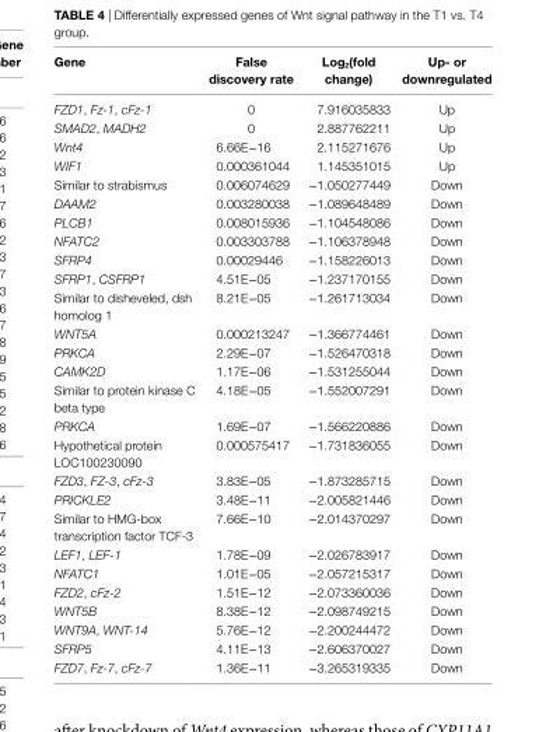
<table><thead><tr><td>gene</td><td>False discovery rate</td><td>log<sub>2</sub>(fold change)</td><td>Up- or downregulated</td></tr></thead><tbody><tr><td>FZD1, Fz-1, cFz-1</td><td>0</td><td>7.916035833</td><td>Up</td></tr><tr><td>SMAD2, MADH2</td><td>0</td><td>2.887762211</td><td>Up</td></tr><tr><td>Wnt4</td><td>6.66E−16</td><td>2.115271676</td><td>Up</td></tr><tr><td>WIF1</td><td>0.000361044</td><td>1.145351015</td><td>Up</td></tr><tr><td>Similar to strabismus</td><td>0.006074629</td><td>−1.050277449</td><td>Down</td></tr><tr><td>DAAM2</td><td>0.003280038</td><td>−1.089648489</td><td>Down</td></tr><tr><td>PLCB1</td><td>0.008015936</td><td>−1.104548086</td><td>Down</td></tr><tr><td>NFATC2</td><td>0.003303788</td><td>−1.106378948</td><td>Down</td></tr><tr><td>SFRP4</td><td>0.00029446</td><td>−1.158226013</td><td>Down</td></tr><tr><td>SFRP1, CSFRP1</td><td>4.51E−05</td><td>−1.237170155</td><td>Down</td></tr><tr><td>Similar to disheveled, dsh homolog 1</td><td>8.21E−05</td><td>−1.261713034</td><td>Down</td></tr><tr><td>WNT5A</td><td>0.000213247</td><td>−1.366774461</td><td>Down</td></tr><tr><td>PRKCA</td><td>2.29E−07</td><td>−1.526470318</td><td>Down</td></tr><tr><td>CAMK2D</td><td>1.17E−06</td><td>−1.531255044</td><td>Down</td></tr><tr><td>Similar to protein kinase C beta type</td><td>4.18E−05</td><td>−1.552007291</td><td>Down</td></tr><tr><td>PRKCA</td><td>1.69E−07</td><td>−1.566220886</td><td>Down</td></tr><tr><td>Hypothetical protein LOC100230090</td><td>0.000575417</td><td>−1.731836055</td><td>Down</td></tr><tr><td>FZD3, FZ-3, cFz-3</td><td>3.83E−05</td><td>−1.873285715</td><td>Down</td></tr><tr><td>PRICKLE2</td><td>3.48E−11</td><td>−2.005821446</td><td>Down</td></tr><tr><td>Similar to HMG-box transcription factor TCF-3</td><td>7.66E−10</td><td>−2.014370297</td><td>Down</td></tr><tr><td>LEF1, LEF-1</td><td>1.78E−09</td><td>−2.026783917</td><td>Down</td></tr><tr><td>NFATC1</td><td>1.01E−05</td><td>−2.057215317</td><td>Down</td></tr><tr><td>FZD2, cFz-2</td><td>1.51E−12</td><td>−2.073360036</td><td>Down</td></tr><tr><td>WNT5B</td><td>8.38E−12</td><td>−2.098749215</td><td>Down</td></tr><tr><td>WNT9A, WNT-14</td><td>5.76E−12</td><td>−2.200244472</td><td>Down</td></tr><tr><td>SFRP5</td><td>4.11E−13</td><td>−2.606370027</td><td>Down</td></tr><tr><td>FZD7, Fz-7, cFz-7</td><td>1.36E−11</td><td>−3.265319335</td><td>Down</td></tr></tbody></table>